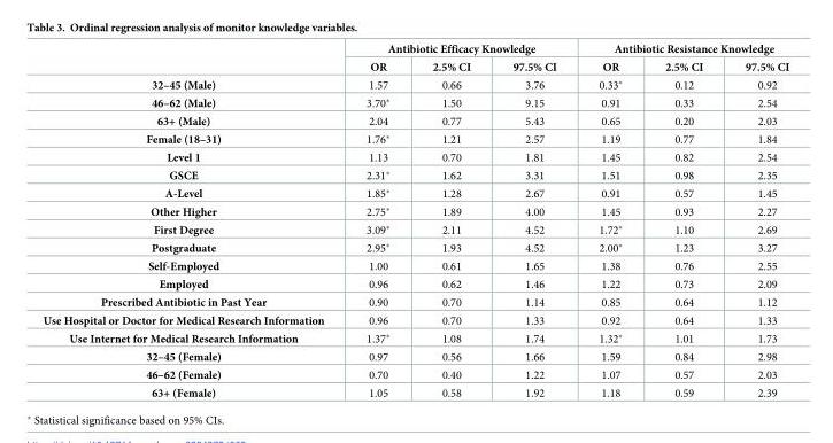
<table><thead><tr><td rowspan="2"></td><td colspan="3">Antibiotic Efficacy Knowledge</td><td colspan="3">Antibiotic Resistance Knowledge</td></tr><tr><td>OR</td><td>2.5% CI</td><td>97.5% CI</td><td>OR</td><td>2.5% CI</td><td>97.5% CI</td></tr></thead><tbody><tr><td>32–45 (Male)</td><td>1.57</td><td>0.66</td><td>3.76</td><td>0.33*</td><td>0.12</td><td>0.92</td></tr><tr><td>46–62 (Male)</td><td>3.70*</td><td>1.50</td><td>9.15</td><td>0.91</td><td>0.33</td><td>2.54</td></tr><tr><td>63+ (Male)</td><td>2.04</td><td>0.77</td><td>5.43</td><td>0.65</td><td>0.20</td><td>2.03</td></tr><tr><td>Female (18–31)</td><td>1.76*</td><td>1.21</td><td>2.57</td><td>1.19</td><td>0.77</td><td>1.84</td></tr><tr><td>Level 1</td><td>1.13</td><td>0.70</td><td>1.81</td><td>1.45</td><td>0.82</td><td>2.54</td></tr><tr><td>GSCE</td><td>2.31*</td><td>1.62</td><td>3.31</td><td>1.51</td><td>0.98</td><td>2.35</td></tr><tr><td>A-Level</td><td>1.85*</td><td>1.28</td><td>2.67</td><td>0.91</td><td>0.57</td><td>1.45</td></tr><tr><td>Other Higher</td><td>2.75*</td><td>1.89</td><td>4.00</td><td>1.45</td><td>0.93</td><td>2.27</td></tr><tr><td>First Degree</td><td>3.09*</td><td>2.11</td><td>4.52</td><td>1.72*</td><td>1.10</td><td>2.69</td></tr><tr><td>Postgraduate</td><td>2.95*</td><td>1.93</td><td>4.52</td><td>2.00*</td><td>1.23</td><td>3.27</td></tr><tr><td>Self-Employed</td><td>1.00</td><td>0.61</td><td>1.65</td><td>1.38</td><td>0.76</td><td>2.55</td></tr><tr><td>Employed</td><td>0.96</td><td>0.62</td><td>1.46</td><td>1.22</td><td>0.73</td><td>2.09</td></tr><tr><td>Prescribed Antibiotic in Past Year</td><td>0.90</td><td>0.70</td><td>1.14</td><td>0.85</td><td>0.64</td><td>1.12</td></tr><tr><td>Use Hospital or Doctor for Medical Research Information</td><td>0.96</td><td>0.70</td><td>1.33</td><td>0.92</td><td>0.64</td><td>1.33</td></tr><tr><td>Use Internet for Medical Research Information</td><td>1.37*</td><td>1.08</td><td>1.74</td><td>1.32*</td><td>1.01</td><td>1.73</td></tr><tr><td>32–45 (Female)</td><td>0.97</td><td>0.56</td><td>1.66</td><td>1.59</td><td>0.84</td><td>2.98</td></tr><tr><td>46–62 (Female)</td><td>0.70</td><td>0.40</td><td>1.22</td><td>1.07</td><td>0.57</td><td>2.03</td></tr><tr><td>63+ (Female)</td><td>1.05</td><td>0.58</td><td>1.92</td><td>1.18</td><td>0.59</td><td>2.39</td></tr></tbody></table>